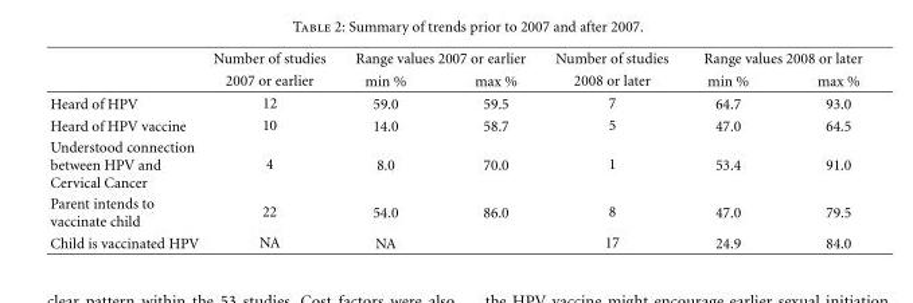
<table><thead><tr><td rowspan="2"></td><td rowspan="2">Number of studies 2007 or earlier</td><td colspan="2">Range values 2007 or earlier</td><td rowspan="2">Number of studies 2008 or later</td><td colspan="2">Range values 2008 or later</td></tr><tr><td>min %</td><td>max %</td><td>min %</td><td>max %</td></tr></thead><tbody><tr><td>Heard of HPV</td><td>12</td><td>59.0</td><td>59.5</td><td>7</td><td>64.7</td><td>93.0</td></tr><tr><td>Heard of HPV vaccine</td><td>10</td><td>14.0</td><td>58.7</td><td>5</td><td>47.0</td><td>64.5</td></tr><tr><td>Understood connection between HPV and Cervical Cancer</td><td>4</td><td>8.0</td><td>70.0</td><td>1</td><td>53.4</td><td>91.0</td></tr><tr><td>Parent intends to vaccinate child</td><td>22</td><td>54.0</td><td>86.0</td><td>8</td><td>47.0</td><td>79.5</td></tr><tr><td>Child is vaccinated HPV</td><td>NA</td><td>NA</td><td></td><td>17</td><td>24.9</td><td>84.0</td></tr></tbody></table>